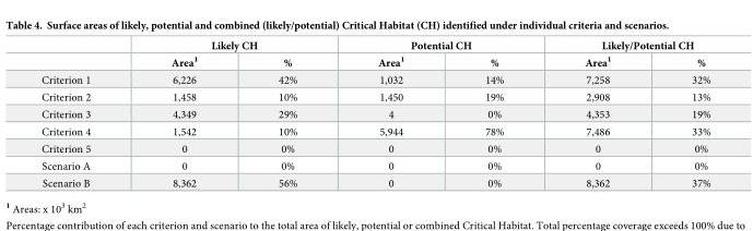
<table><thead><tr><td rowspan="2"></td><td colspan="2">Likely CH</td><td colspan="2">Potential CH</td><td colspan="2">Likely/Potential CH</td></tr><tr><td>Area<sup>1</sup></td><td>%</td><td>Area<sup>1</sup></td><td>%</td><td>Area<sup>1</sup></td><td>%</td></tr></thead><tbody><tr><td>Criterion 1</td><td>6,226</td><td>42%</td><td>1,032</td><td>14%</td><td>7,258</td><td>32%</td></tr><tr><td>Criterion 2</td><td>1,458</td><td>10%</td><td>1,450</td><td>19%</td><td>2,908</td><td>13%</td></tr><tr><td>Criterion 3</td><td>4,349</td><td>29%</td><td>4</td><td>0%</td><td>4,353</td><td>19%</td></tr><tr><td>Criterion 4</td><td>1,542</td><td>10%</td><td>5,944</td><td>78%</td><td>7,486</td><td>33%</td></tr><tr><td>Criterion 5</td><td>0</td><td>0%</td><td>0</td><td>0%</td><td>0</td><td>0%</td></tr><tr><td>Scenario A</td><td>0</td><td>0%</td><td>0</td><td>0%</td><td>0</td><td>0%</td></tr><tr><td>Scenario B</td><td>8,362</td><td>56%</td><td>0</td><td>0%</td><td>8,362</td><td>37%</td></tr></tbody></table>